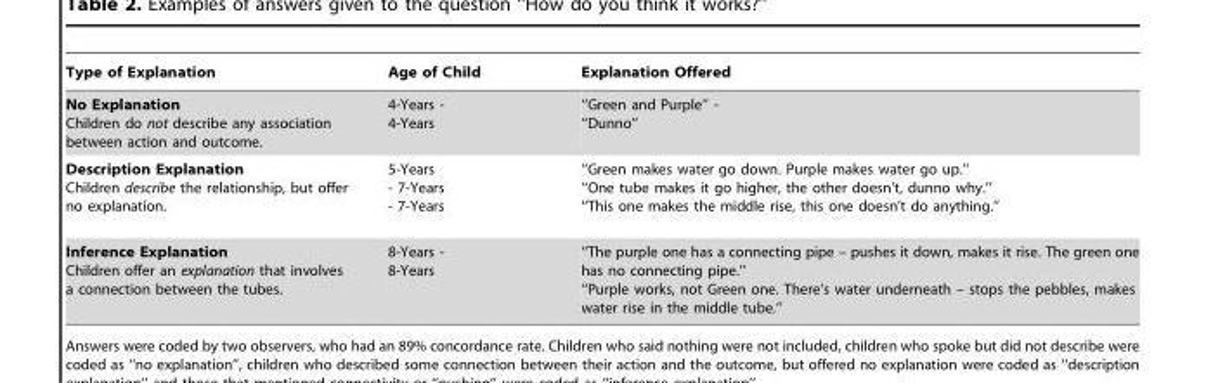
<table><thead><tr><td>Type of Explanation</td><td>Age of Child</td><td>Explanation Offered</td></tr></thead><tbody><tr><td>No Explanation Children do not describe any association between action and outcome.</td><td>4-Years - 4-Years</td><td>‘‘Green and Purple’’ - ‘‘Dunno’’</td></tr><tr><td>Description Explanation Children describe the relationship, but offer no explanation.</td><td>5-Years - 7-Years - 7-Years</td><td>‘‘Green makes water go down. Purple makes water go up.’’ ‘‘One tube makes it go higher, the other doesn’t, dunno why.’’ ‘‘This one makes the middle rise, this one doesn’t do anything.’’</td></tr><tr><td>Inference Explanation Children offer an explanation that involves a connection between the tubes.</td><td>8-Years - 8-Years</td><td>‘‘The purple one has a connecting pipe – pushes it down, makes it rise. The green one has no connecting pipe.’’ ‘‘Purple works, not Green one. There’s water underneath – stops the pebbles, makes water rise in the middle tube.’’</td></tr></tbody></table>